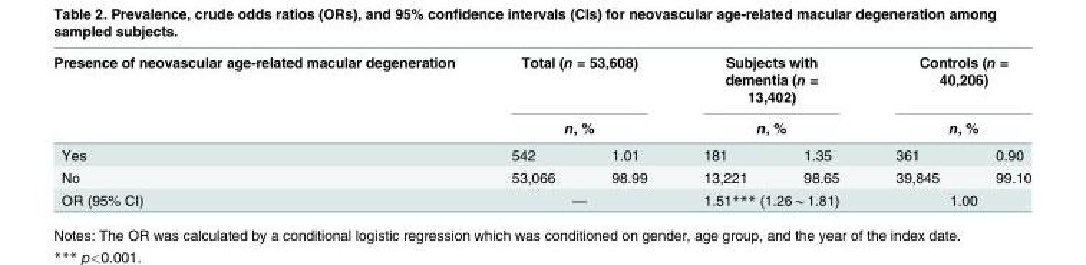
<table><thead><tr><td rowspan="3">Presence of neovascular age-related macular degeneration Yes</td><td rowspan="2" colspan="2">Total (n = 53,608) n, %</td><td rowspan="2" colspan="2">Subjects with dementia (n = 13,402) n, %</td><td rowspan="2" colspan="2">Controls (n = 40,206) n, %</td></tr><tr></tr><tr><td>542</td><td>1.01</td><td>181</td><td>1.35</td><td>361</td><td>0.90</td></tr></thead><tbody><tr><td>No</td><td>53,066</td><td>98.99</td><td>13,221</td><td>98.65</td><td>39,845</td><td>99.10</td></tr><tr><td>OR (95% CI)</td><td colspan="2">—</td><td colspan="2">1.51*** (1.26*1.81)</td><td colspan="2">1.00</td></tr></tbody></table>